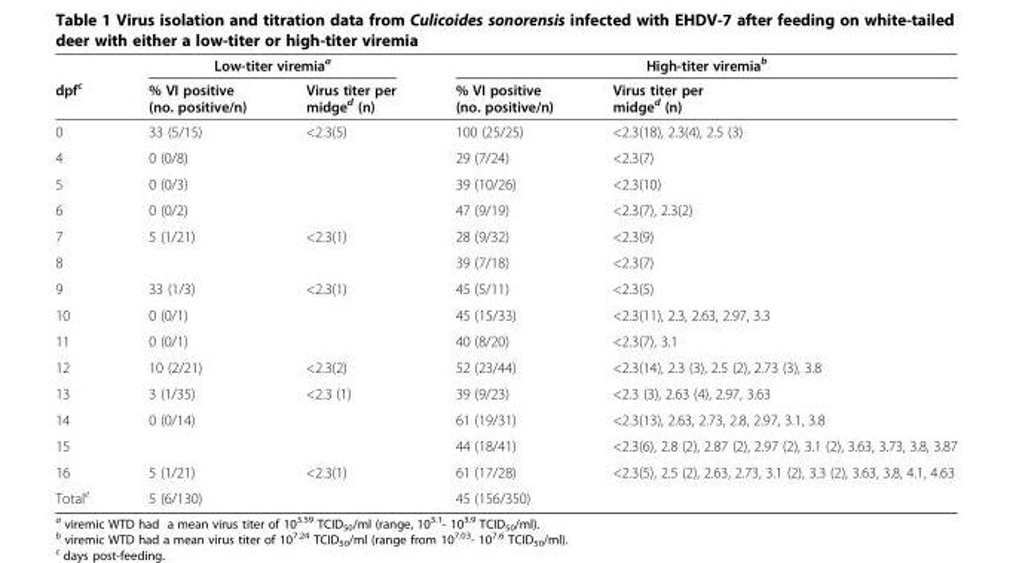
<table><thead><tr><td rowspan="2">dpf<sup>c</sup></td><td colspan="2">Low-titer viremia<sup>a</sup></td><td colspan="2">High-titer viremia<sup>b</sup></td></tr><tr><td>% VI positive (no. positive/n)</td><td>Virus titer per midge<sup>d</sup> (n)</td><td>% VI positive (no. positive/n)</td><td>Virus titer per midge<sup>d</sup> (n)</td></tr></thead><tbody><tr><td>0</td><td>33 (5/15)</td><td>&lt;2.3(5)</td><td>100 (25/25)</td><td>&lt;2.3(18), 2.3(4), 2.5 (3)</td></tr><tr><td>4</td><td>0 (0/8)</td><td></td><td>29 (7/24)</td><td>&lt;2.3(7)</td></tr><tr><td>5</td><td>0 (0/3)</td><td></td><td>39 (10/26)</td><td>&lt;2.3(10)</td></tr><tr><td>6</td><td>0 (0/2)</td><td></td><td>47 (9/19)</td><td>&lt;2.3(7), 2.3(2)</td></tr><tr><td>7</td><td>5 (1/21)</td><td>&lt;2.3(1)</td><td>28 (9/32)</td><td>&lt;2.3(9)</td></tr><tr><td>8</td><td></td><td></td><td>39 (7/18)</td><td>&lt;2.3(7)</td></tr><tr><td>9</td><td>33 (1/3)</td><td>&lt;2.3(1)</td><td>45 (5/11)</td><td>&lt;2.3(5)</td></tr><tr><td>10</td><td>0 (0/1)</td><td></td><td>45 (15/33)</td><td>&lt;2.3(11), 2.3, 2.63, 2.97, 3.3</td></tr><tr><td>11</td><td>0 (0/1)</td><td></td><td>40 (8/20)</td><td>&lt;2.3(7), 3.1</td></tr><tr><td>12</td><td>10 (2/21)</td><td>&lt;2.3(2)</td><td>52 (23/44)</td><td>&lt;2.3(14), 2.3 (3), 2.5 (2), 2.73 (3), 3.8</td></tr><tr><td>13</td><td>3 (1/35)</td><td>&lt;2.3 (1)</td><td>39 (9/23)</td><td>&lt;2.3 (3), 2.63 (4), 2.97, 3.63</td></tr><tr><td>14</td><td>0 (0/14)</td><td></td><td>61 (19/31)</td><td>&lt;2.3(13), 2.63, 2.73, 2.8, 2.97, 3.1, 3.8</td></tr><tr><td>15</td><td></td><td></td><td>44 (18/41)</td><td>&lt;2.3(6), 2.8 (2), 2.87 (2), 2.97 (2), 3.1 (2), 3.63, 3.73, 3.8, 3.87</td></tr><tr><td>16</td><td>5 (1/21)</td><td>&lt;2.3(1)</td><td>61 (17/28)</td><td>&lt;2.3(5), 2.5 (2), 2.63, 2.73, 3.1 (2), 3.3 (2), 3.63, 3.8, 4.1, 4.63</td></tr><tr><td>Total<sup>e</sup></td><td>5 (6/130)</td><td></td><td>45 (156/350)</td><td></td></tr></tbody></table>